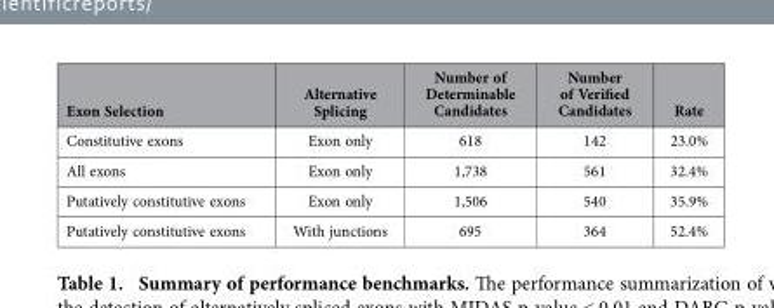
<table><thead><tr><td>Exon Selection</td><td>Alternative Splicing</td><td>Number of Determinable Candidates</td><td>Number of Verified Candidates</td><td>Rate</td></tr></thead><tbody><tr><td>Constitutive exons</td><td>Exon only</td><td>618</td><td>142</td><td>23.0%</td></tr><tr><td>All exons</td><td>Exon only</td><td>1,738</td><td>561</td><td>32.4%</td></tr><tr><td>Putatively constitutive exons</td><td>Exon only</td><td>1,506</td><td>540</td><td>35.9%</td></tr><tr><td>Putatively constitutive exons</td><td>With junctions</td><td>695</td><td>364</td><td>52.4%</td></tr></tbody></table>